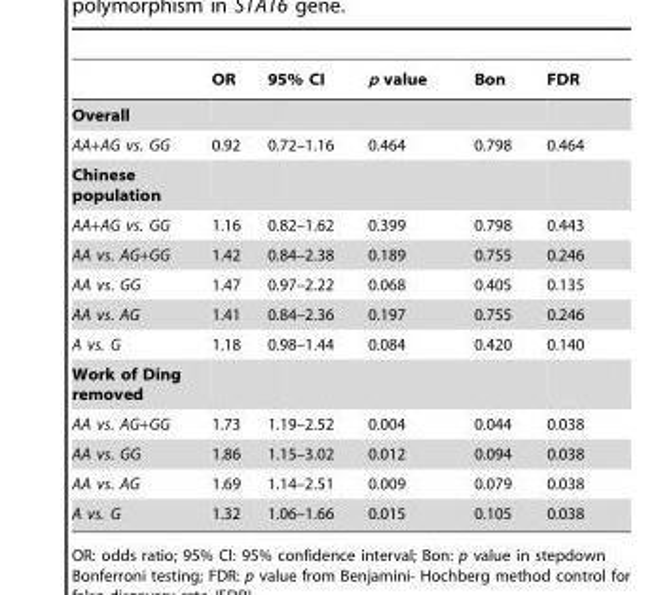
<table><thead><tr><td></td><td>OR</td><td>95% CI</td><td>p value</td><td>Bon</td><td>FDR</td></tr></thead><tbody><tr><td colspan="6">Overall</td></tr><tr><td>AA+AG vs. GG</td><td>0.92</td><td>0.72–1.16</td><td>0.464</td><td>0.798</td><td>0.464</td></tr><tr><td colspan="6">Chinese population</td></tr><tr><td>AA+AG vs. GG</td><td>1.16</td><td>0.82–1.62</td><td>0.399</td><td>0.798</td><td>0.443</td></tr><tr><td>AA vs. AG+GG</td><td>1.42</td><td>0.84–2.38</td><td>0.189</td><td>0.755</td><td>0.246</td></tr><tr><td>AA vs. GG</td><td>1.47</td><td>0.97–2.22</td><td>0.068</td><td>0.405</td><td>0.135</td></tr><tr><td>AA vs. AG</td><td>1.41</td><td>0.84–2.36</td><td>0.197</td><td>0.755</td><td>0.246</td></tr><tr><td>A vs. G</td><td>1.18</td><td>0.98–1.44</td><td>0.084</td><td>0.420</td><td>0.140</td></tr><tr><td colspan="6">Work of Ding removed</td></tr><tr><td>AA vs. AG+GG</td><td>1.73</td><td>1.19–2.52</td><td>0.004</td><td>0.044</td><td>0.038</td></tr><tr><td>AA vs. GG</td><td>1.86</td><td>1.15–3.02</td><td>0.012</td><td>0.094</td><td>0.038</td></tr><tr><td>AA vs. AG</td><td>1.69</td><td>1.14–2.51</td><td>0.009</td><td>0.079</td><td>0.038</td></tr><tr><td>A vs. G</td><td>1.32</td><td>1.06–1.66</td><td>0.015</td><td>0.105</td><td>0.038</td></tr></tbody></table>